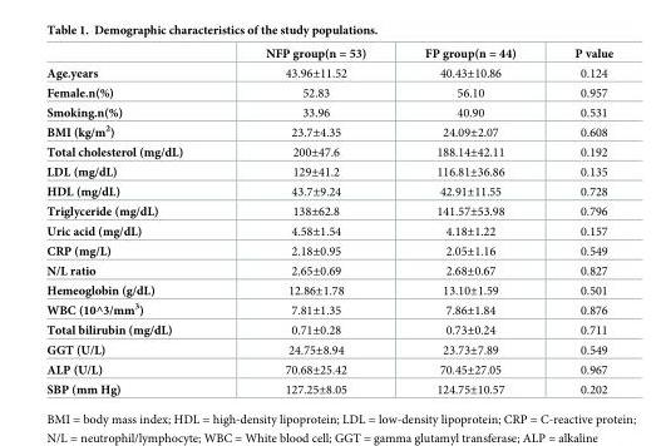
<table><thead><tr><td></td><td>NFP group(n = 53)</td><td>FP group(n = 44)</td><td>P value</td></tr></thead><tbody><tr><td>Age.years</td><td>43.96±11.52</td><td>40.43±10.86</td><td>0.124</td></tr><tr><td>Female.n(%)</td><td>52.83</td><td>56.10</td><td>0.957</td></tr><tr><td>Smoking.n(%)</td><td>33.96</td><td>40.90</td><td>0.531</td></tr><tr><td>BMI (kg/m<sup>2</sup>)</td><td>23.7±4.35</td><td>24.09±2.07</td><td>0.608</td></tr><tr><td>Total cholesterol (mg/dL)</td><td>200±47.6</td><td>188.14±42.11</td><td>0.192</td></tr><tr><td>LDL (mg/dL)</td><td>129±41.2</td><td>116.81±36.86</td><td>0.135</td></tr><tr><td>HDL (mg/dL)</td><td>43.7±9.24</td><td>42.91±11.55</td><td>0.728</td></tr><tr><td>Triglyceride (mg/dL)</td><td>138±62.8</td><td>141.57±53.98</td><td>0.796</td></tr><tr><td>Uric acid (mg/dL)</td><td>4.58±1.54</td><td>4.18±1.22</td><td>0.157</td></tr><tr><td>CRP (mg/L)</td><td>2.18±0.95</td><td>2.05±1.16</td><td>0.549</td></tr><tr><td>N/L ratio</td><td>2.65±0.69</td><td>2.68±0.67</td><td>0.827</td></tr><tr><td>Hemeoglobin (g/dL)</td><td>12.86±1.78</td><td>13.10±1.59</td><td>0.501</td></tr><tr><td>WBC (10^3/mm<sup>3</sup>)</td><td>7.81±1.35</td><td>7.86±1.84</td><td>0.876</td></tr><tr><td>Total bilirubin (mg/dL)</td><td>0.71±0.28</td><td>0.73±0.24</td><td>0.711</td></tr><tr><td>GGT (U/L)</td><td>24.75±8.94</td><td>23.73±7.89</td><td>0.549</td></tr><tr><td>ALP (U/L)</td><td>70.68±25.42</td><td>70.45±27.05</td><td>0.967</td></tr><tr><td>SBP (mm Hg)</td><td>127.25±8.05</td><td>124.75±10.57</td><td>0.202</td></tr></tbody></table>